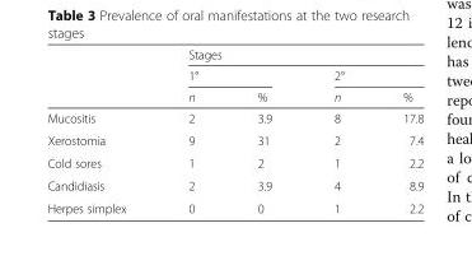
<table><thead><tr><td rowspan="3"></td><td colspan="4">Stages</td></tr><tr><td colspan="2">1°</td><td colspan="2">2°</td></tr><tr><td>n</td><td>%</td><td>n</td><td>%</td></tr></thead><tbody><tr><td>Mucositis</td><td>2</td><td>3.9</td><td>8</td><td>17.8</td></tr><tr><td>Xerostomia</td><td>9</td><td>31</td><td>2</td><td>7.4</td></tr><tr><td>Cold sores</td><td>1</td><td>2</td><td>1</td><td>2.2</td></tr><tr><td>Candidiasis</td><td>2</td><td>3.9</td><td>4</td><td>8.9</td></tr><tr><td>Herpes simplex</td><td>0</td><td>0</td><td>1</td><td>2.2</td></tr></tbody></table>